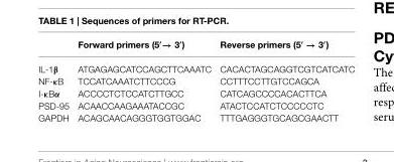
<table><thead><tr><td></td><td>Forward primers (5′→ 3′)</td><td>Reverse primers (5′ → 3′)</td></tr></thead><tbody><tr><td>IL-1β</td><td>ATGAGAGCATCCAGCTTCAAATC</td><td>CACACTAGCAGGTCGTCATCATC</td></tr><tr><td>NF-κB</td><td>TCCATCAAATCTTCCCG</td><td>CCTTTCCTTGTCCAGCA</td></tr><tr><td>I-κBα</td><td>ACCCCTCTCCATCTTGCC</td><td>CATCAGCCCCACACTTCA</td></tr><tr><td>PSD-95</td><td>ACAACCAAGAAATACCGC</td><td>ATACTCCATCTCCCCCTC</td></tr><tr><td>GAPDH</td><td>ACAGCAACAGGGTGGTGGAC</td><td>TTTGAGGGTGCAGCGAACTT</td></tr></tbody></table>